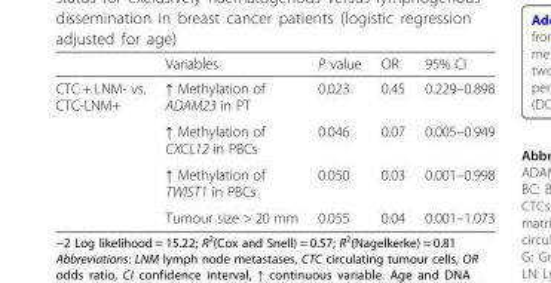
<table><thead><tr><td></td><td>Variables</td><td>P value</td><td>OR</td><td>95% CI</td></tr></thead><tbody><tr><td rowspan="4">CTC + LNM- vs. CTC-LNM+</td><td>↑ Methylation of ADAM23 in PT</td><td>0.023</td><td>0.45</td><td>0.229–0.898</td></tr><tr><td>↑ Methylation of CXCL12 in PBCs</td><td>0.046</td><td>0.07</td><td>0.005–0.949</td></tr><tr><td>↑ Methylation of TWIST1 in PBCs</td><td>0.050</td><td>0.03</td><td>0.001–0.998</td></tr><tr><td>Tumour size &gt; 20 mm</td><td>0.055</td><td>0.04</td><td>0.001–1.073</td></tr></tbody></table>